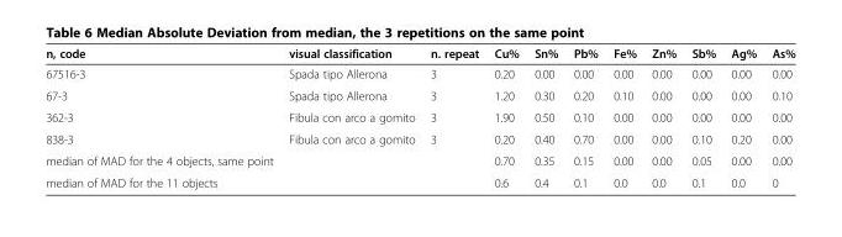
<table><thead><tr><td>n, code</td><td>visual classification</td><td>n. repeat</td><td>Cu%</td><td>Sn%</td><td>Pb%</td><td>Fe%</td><td>Zn%</td><td>Sb%</td><td>Ag%</td><td>As%</td></tr></thead><tbody><tr><td>67516-3</td><td>Spada tipo Allerona</td><td>3</td><td>0.20</td><td>0.00</td><td>0.00</td><td>0.00</td><td>0.00</td><td>0.00</td><td>0.00</td><td>0.00</td></tr><tr><td>67-3</td><td>Spada tipo Allerona</td><td>3</td><td>1.20</td><td>0.30</td><td>0.20</td><td>0.10</td><td>0.00</td><td>0.00</td><td>0.00</td><td>0.10</td></tr><tr><td>362-3</td><td>Fibula con arco a gomito</td><td>3</td><td>1.90</td><td>0.50</td><td>0.10</td><td>0.00</td><td>0.00</td><td>0.00</td><td>0.00</td><td>0.00</td></tr><tr><td>838-3</td><td>Fibula con arco a gomito</td><td>3</td><td>0.20</td><td>0.40</td><td>0.70</td><td>0.00</td><td>0.00</td><td>0.10</td><td>0.20</td><td>0.00</td></tr><tr><td>median of MAD for the 4 objects, same point</td><td></td><td></td><td>0.70</td><td>0.35</td><td>0.15</td><td>0.00</td><td>0.00</td><td>0.05</td><td>0.00</td><td>0.00</td></tr><tr><td>median of MAD for the 11 objects</td><td></td><td></td><td>0.6</td><td>0.4</td><td>0.1</td><td>0.0</td><td>0.0</td><td>0.1</td><td>0.0</td><td>0</td></tr></tbody></table>